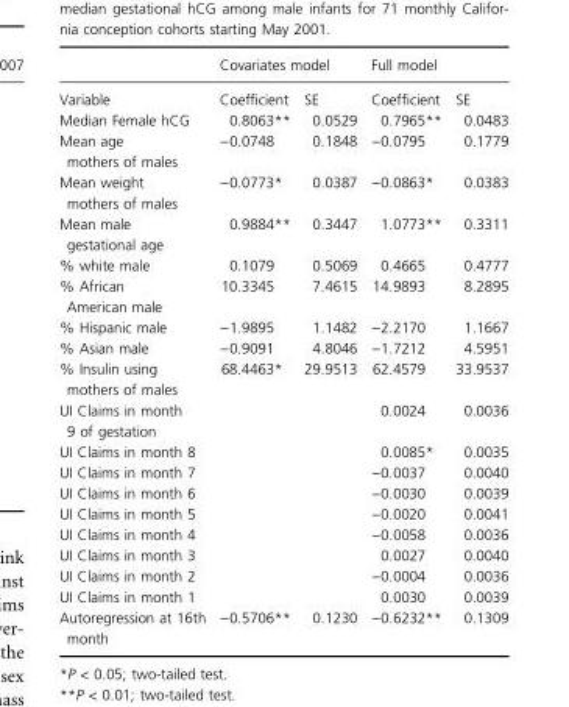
<table><thead><tr><td rowspan="2">Variable</td><td colspan="2">Covariates model</td><td colspan="2">Full model</td></tr><tr><td>Coefficient</td><td>SE</td><td>Coefficient</td><td>SE</td></tr></thead><tbody><tr><td>Median Female hCG</td><td>0.8063**</td><td>0.0529</td><td>0.7965**</td><td>0.0483</td></tr><tr><td>Mean age mothers of males</td><td>−0.0748</td><td>0.1848</td><td>−0.0795</td><td>0.1779</td></tr><tr><td>Mean weight mothers of males</td><td>−0.0773*</td><td>0.0387</td><td>−0.0863*</td><td>0.0383</td></tr><tr><td>Mean male gestational age</td><td>0.9884**</td><td>0.3447</td><td>1.0773**</td><td>0.3311</td></tr><tr><td>% white male</td><td>0.1079</td><td>0.5069</td><td>0.4665</td><td>0.4777</td></tr><tr><td>% African American male</td><td>10.3345</td><td>7.4615</td><td>14.9893</td><td>8.2895</td></tr><tr><td>% Hispanic male</td><td>−1.9895</td><td>1.1482</td><td>−2.2170</td><td>1.1667</td></tr><tr><td>% Asian male</td><td>−0.9091</td><td>4.8046</td><td>−1.7212</td><td>4.5951</td></tr><tr><td>% Insulin using mothers of males</td><td>68.4463*</td><td>29.9513</td><td>62.4579</td><td>33.9537</td></tr><tr><td>UI Claims in month 9 of gestation</td><td></td><td></td><td>0.0024</td><td>0.0036</td></tr><tr><td>UI Claims in month 8</td><td></td><td></td><td>0.0085*</td><td>0.0035</td></tr><tr><td>UI Claims in month 7</td><td></td><td></td><td>−0.0037</td><td>0.0040</td></tr><tr><td>UI Claims in month 6</td><td></td><td></td><td>−0.0030</td><td>0.0039</td></tr><tr><td>UI Claims in month 5</td><td></td><td></td><td>−0.0020</td><td>0.0041</td></tr><tr><td>UI Claims in month 4</td><td></td><td></td><td>−0.0058</td><td>0.0036</td></tr><tr><td>UI Claims in month 3</td><td></td><td></td><td>0.0027</td><td>0.0040</td></tr><tr><td>UI Claims in month 2</td><td></td><td></td><td>−0.0004</td><td>0.0036</td></tr><tr><td>UI Claims in month 1</td><td></td><td></td><td>0.0030</td><td>0.0039</td></tr><tr><td>Autoregression at 16th month</td><td>−0.5706**</td><td>0.1230</td><td>−0.6232**</td><td>0.1309</td></tr></tbody></table>